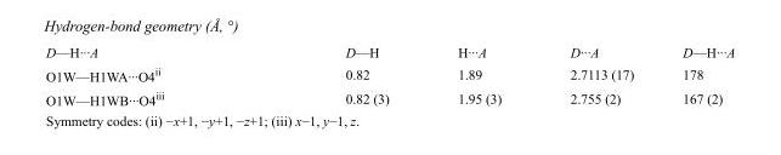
<table><tbody><tr><td>D—H···A</td><td>D—H</td><td>H···A</td><td>D···A</td><td>D—H···A</td></tr><tr><td>O1W—H1WA···O4<sup>ii</sup></td><td>0.82</td><td>1.89</td><td>2.7113 (17)</td><td>178</td></tr><tr><td>O1W—H1WB···O4<sup>iii</sup></td><td>0.82 (3)</td><td>1.95 (3)</td><td>2.755 (2)</td><td>167 (2)</td></tr></tbody></table>